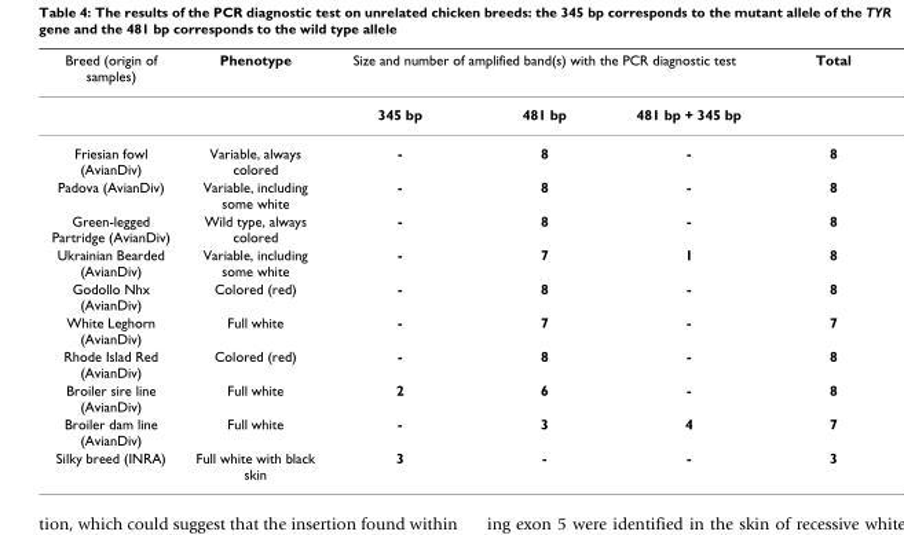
<table><thead><tr><td rowspan="2">Breed (origin of samples)</td><td rowspan="2">Phenotype</td><td colspan="3">Size and number of amplified band(s) with the PCR diagnostic test</td><td rowspan="2">Total</td></tr><tr><td>345 bp</td><td>481 bp</td><td>481 bp + 345 bp</td></tr></thead><tbody><tr><td>Friesian fowl (AvianDiv)</td><td>Variable, always colored</td><td>-</td><td>8</td><td>-</td><td>8</td></tr><tr><td>Padova (AvianDiv)</td><td>Variable, including some white</td><td>-</td><td>8</td><td>-</td><td>8</td></tr><tr><td>Green-legged Partridge (AvianDiv)</td><td>Wild type, always colored</td><td>-</td><td>8</td><td>-</td><td>8</td></tr><tr><td>Ukrainian Bearded (AvianDiv)</td><td>Variable, including some white</td><td>-</td><td>7</td><td>1</td><td>8</td></tr><tr><td>Godollo Nhx (AvianDiv)</td><td>Colored (red)</td><td>-</td><td>8</td><td>-</td><td>8</td></tr><tr><td>White Leghorn (AvianDiv)</td><td>Full white</td><td>-</td><td>7</td><td>-</td><td>7</td></tr><tr><td>Rhode Islad Red (AvianDiv)</td><td>Colored (red)</td><td>-</td><td>8</td><td>-</td><td>8</td></tr><tr><td>Broiler sire line (AvianDiv)</td><td>Full white</td><td>2</td><td>6</td><td>-</td><td>8</td></tr><tr><td>Broiler dam line (AvianDiv)</td><td>Full white</td><td>-</td><td>3</td><td>4</td><td>7</td></tr><tr><td>Silky breed (INRA)</td><td>Full white with black skin</td><td>3</td><td>-</td><td>-</td><td>3</td></tr></tbody></table>